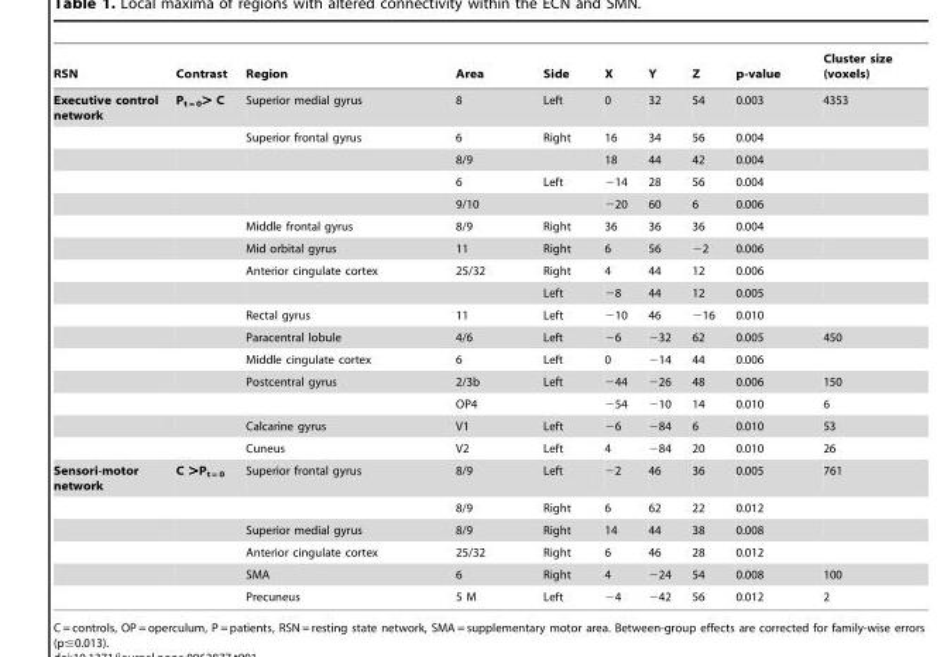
<table><thead><tr><td>RSN</td><td>Contrast</td><td>Region</td><td>Area</td><td>Side</td><td>X</td><td>Y</td><td>Z</td><td>p-value</td><td>Cluster size (voxels)</td></tr></thead><tbody><tr><td rowspan="16">Executive control network</td><td>P<sub>t = 0</sub>&gt; C</td><td>Superior medial gyrus</td><td>8</td><td>Left</td><td>0</td><td>32</td><td>54</td><td>0.003</td><td>4353</td></tr><tr><td></td><td>Superior frontal gyrus</td><td>6</td><td>Right</td><td>16</td><td>34</td><td>56</td><td>0.004</td><td></td></tr><tr><td></td><td></td><td>8/9</td><td></td><td>18</td><td>44</td><td>42</td><td>0.004</td><td></td></tr><tr><td></td><td></td><td>6</td><td>Left</td><td>−14</td><td>28</td><td>56</td><td>0.004</td><td></td></tr><tr><td></td><td></td><td>9/10</td><td></td><td>−20</td><td>60</td><td>6</td><td>0.006</td><td></td></tr><tr><td></td><td>Middle frontal gyrus</td><td>8/9</td><td>Right</td><td>36</td><td>36</td><td>36</td><td>0.004</td><td></td></tr><tr><td></td><td>Mid orbital gyrus</td><td>11</td><td>Right</td><td>6</td><td>56</td><td>−2</td><td>0.006</td><td></td></tr><tr><td></td><td>Anterior cingulate cortex</td><td>25/32</td><td>Right</td><td>4</td><td>44</td><td>12</td><td>0.006</td><td></td></tr><tr><td></td><td></td><td></td><td>Left</td><td>−8</td><td>44</td><td>12</td><td>0.005</td><td></td></tr><tr><td></td><td>Rectal gyrus</td><td>11</td><td>Left</td><td>−10</td><td>46</td><td>−16</td><td>0.010</td><td></td></tr><tr><td></td><td>Paracentral lobule</td><td>4/6</td><td>Left</td><td>−6</td><td>−32</td><td>62</td><td>0.005</td><td>450</td></tr><tr><td></td><td>Middle cingulate cortex</td><td>6</td><td>Left</td><td>0</td><td>−14</td><td>44</td><td>0.006</td><td></td></tr><tr><td></td><td>Postcentral gyrus</td><td>2/3b</td><td>Left</td><td>−44</td><td>−26</td><td>48</td><td>0.006</td><td>150</td></tr><tr><td></td><td></td><td>OP4</td><td></td><td>−54</td><td>−10</td><td>14</td><td>0.010</td><td>6</td></tr><tr><td></td><td>Calcarine gyrus</td><td>V1</td><td>Left</td><td>−6</td><td>−84</td><td>6</td><td>0.010</td><td>53</td></tr><tr><td></td><td>Cuneus</td><td>V2</td><td>Left</td><td>4</td><td>−84</td><td>20</td><td>0.010</td><td>26</td></tr><tr><td rowspan="6">Sensori-motor network</td><td>C &gt;P<sub>t = 0</sub></td><td>Superior frontal gyrus</td><td>8/9</td><td>Left</td><td>−2</td><td>46</td><td>36</td><td>0.005</td><td>761</td></tr><tr><td></td><td></td><td>8/9</td><td>Right</td><td>6</td><td>62</td><td>22</td><td>0.012</td><td></td></tr><tr><td></td><td>Superior medial gyrus</td><td>8/9</td><td>Right</td><td>14</td><td>44</td><td>38</td><td>0.008</td><td></td></tr><tr><td></td><td>Anterior cingulate cortex</td><td>25/32</td><td>Right</td><td>6</td><td>46</td><td>28</td><td>0.012</td><td></td></tr><tr><td></td><td>SMA</td><td>6</td><td>Right</td><td>4</td><td>−24</td><td>54</td><td>0.008</td><td>100</td></tr><tr><td></td><td>Precuneus</td><td>5 M</td><td>Left</td><td>−4</td><td>−42</td><td>56</td><td>0.012</td><td>2</td></tr></tbody></table>